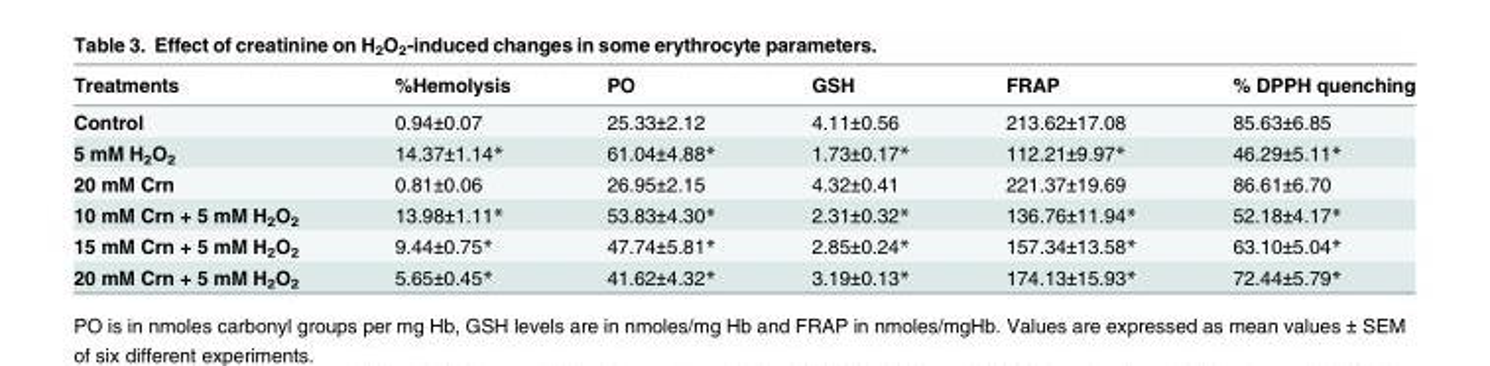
<table><thead><tr><td>Treatments</td><td>%Hemolysis</td><td>PO</td><td>GSH</td><td>FRAP</td><td>% DPPH quenching</td></tr></thead><tbody><tr><td>Control</td><td>0.94±0.07</td><td>25.33±2.12</td><td>4.11±0.56</td><td>213.62±17.08</td><td>85.63±6.85</td></tr><tr><td>5 mM H<sub>2</sub>O<sub>2</sub></td><td>14.37±1.14*</td><td>61.04±4.88*</td><td>1.73±0.17*</td><td>112.21±9.97*</td><td>46.29±5.11*</td></tr><tr><td>20 mM Crn</td><td>0.81±0.06</td><td>26.95±2.15</td><td>4.32±0.41</td><td>221.37±19.69</td><td>86.61±6.70</td></tr><tr><td>10 mM Crn + 5 mM H<sub>2</sub>O<sub>2</sub></td><td>13.98±1.11*</td><td>53.83±4.30*</td><td>2.31±0.32*</td><td>136.76±11.94*</td><td>52.18±4.17*</td></tr><tr><td>15 mM Crn + 5 mM H<sub>2</sub>O<sub>2</sub></td><td>9.44±0.75*</td><td>47.74±5.81*</td><td>2.85±0.24*</td><td>157.34±13.58*</td><td>63.10±5.04*</td></tr><tr><td>20 mM Crn + 5 mM H<sub>2</sub>O<sub>2</sub></td><td>5.65±0.45*</td><td>41.62±4.32*</td><td>3.19±0.13*</td><td>174.13±15.93*</td><td>72.44±5.79*</td></tr></tbody></table>